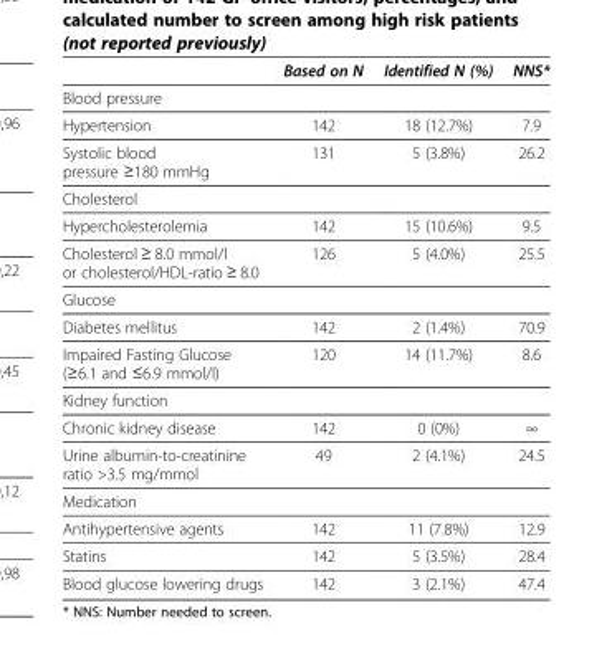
<table><thead><tr><td></td><td>Based on N</td><td>Identified N (%)</td><td>NNS*</td></tr></thead><tbody><tr><td colspan="4">Blood pressure</td></tr><tr><td>Hypertension</td><td>142</td><td>18 (12.7%)</td><td>7.9</td></tr><tr><td>Systolic blood pressure ≥180 mmHg</td><td>131</td><td>5 (3.8%)</td><td>26.2</td></tr><tr><td colspan="4">Cholesterol</td></tr><tr><td>Hypercholesterolemia</td><td>142</td><td>15 (10.6%)</td><td>9.5</td></tr><tr><td>Cholesterol ≥ 8.0 mmol/l or cholesterol/HDL-ratio ≥ 8.0</td><td>126</td><td>5 (4.0%)</td><td>25.5</td></tr><tr><td colspan="4">Glucose</td></tr><tr><td>Diabetes mellitus</td><td>142</td><td>2 (1.4%)</td><td>70.9</td></tr><tr><td>Impaired Fasting Glucose (≥6.1 and ≤6.9 mmol/l)</td><td>120</td><td>14 (11.7%)</td><td>8.6</td></tr><tr><td colspan="4">Kidney function</td></tr><tr><td>Chronic kidney disease</td><td>142</td><td>0 (0%)</td><td>∞</td></tr><tr><td>Urine albumin-to-creatinine ratio &gt;3.5 mg/mmol</td><td>49</td><td>2 (4.1%)</td><td>24.5</td></tr><tr><td colspan="4">Medication</td></tr><tr><td>Antihypertensive agents</td><td>142</td><td>11 (7.8%)</td><td>12.9</td></tr><tr><td>Statins</td><td>142</td><td>5 (3.5%)</td><td>28.4</td></tr><tr><td>Blood glucose lowering drugs</td><td>142</td><td>3 (2.1%)</td><td>47.4</td></tr></tbody></table>